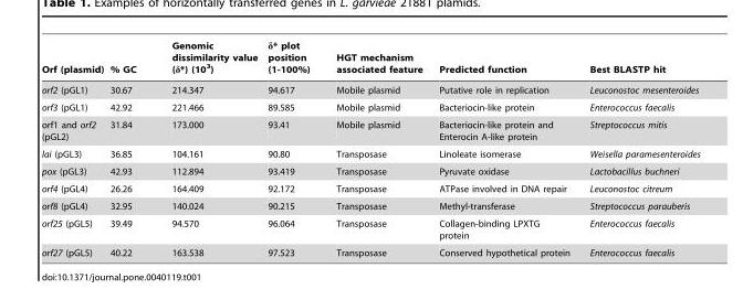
<table><thead><tr><td>Orf (plasmid)</td><td>% GC</td><td>Genomic dissimilarity value (δ*) (10<sup>3</sup>)</td><td>δ* plot position (1-100%)</td><td>HGT mechanism associated feature</td><td>Predicted function</td><td>Best BLASTP hit</td></tr></thead><tbody><tr><td>orf2 (pGL1)</td><td>30.67</td><td>214.347</td><td>94.617</td><td>Mobile plasmid</td><td>Putative role in replication</td><td>Leuconostoc mesenteroides</td></tr><tr><td>orf3 (pGL1)</td><td>42.92</td><td>221.466</td><td>89.585</td><td>Mobile plasmid</td><td>Bacteriocin-like protein</td><td>Enterococcus faecalis</td></tr><tr><td>orf1 and orf2 (pGL2)</td><td>31.84</td><td>173.000</td><td>93.41</td><td>Mobile plasmid</td><td>Bacteriocin-like protein and Enterocin A-like protein</td><td>Streptococcus mitis</td></tr><tr><td>lai (pGL3)</td><td>36.85</td><td>104.161</td><td>90.80</td><td>Transposase</td><td>Linoleate isomerase</td><td>Weisella paramesenteroides</td></tr><tr><td>pox (pGL3)</td><td>42.93</td><td>112.894</td><td>93.419</td><td>Transposase</td><td>Pyruvate oxidase</td><td>Lactobacillus buchneri</td></tr><tr><td>orf4 (pGL4)</td><td>26.26</td><td>164.409</td><td>92.172</td><td>Transposase</td><td>ATPase involved in DNA repair</td><td>Leuconostoc citreum</td></tr><tr><td>orf8 (pGL4)</td><td>32.95</td><td>140.024</td><td>90.215</td><td>Transposase</td><td>Methyl-transferase</td><td>Streptococcus parauberis</td></tr><tr><td>orf25 (pGL5)</td><td>39.49</td><td>94.570</td><td>96.064</td><td>Transposase</td><td>Collagen-binding LPXTG protein</td><td>Enterococcus faecalis</td></tr><tr><td>orf27 (pGL5)</td><td>40.22</td><td>163.538</td><td>97.523</td><td>Transposase</td><td>Conserved hypothetical protein</td><td>Enterococcus faecalis</td></tr></tbody></table>